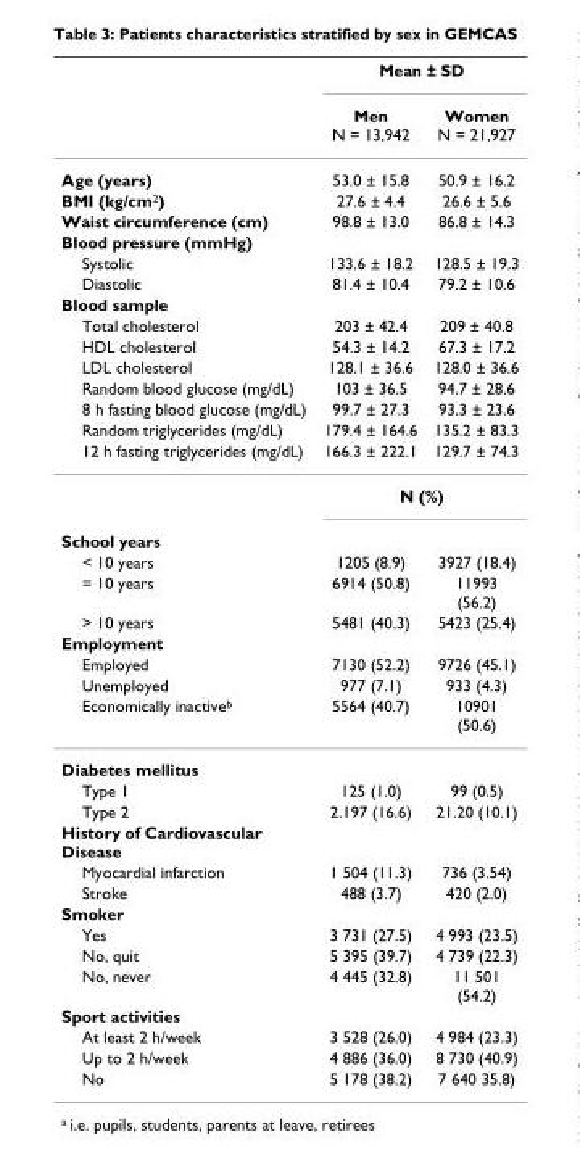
<table><thead><tr><td rowspan="2"></td><td colspan="2">Mean ± SD</td></tr><tr><td>Men N = 13,942</td><td>Women N = 21,927</td></tr></thead><tbody><tr><td>Age (years)</td><td>53.0 ± 15.8</td><td>50.9 ± 16.2</td></tr><tr><td>BMI (kg/cm<sup>2</sup>)</td><td>27.6 ± 4.4</td><td>26.6 ± 5.6</td></tr><tr><td>Waist circumference (cm)</td><td>98.8 ± 13.0</td><td>86.8 ± 14.3</td></tr><tr><td colspan="3">Blood pressure (mmHg)</td></tr><tr><td>Systolic</td><td>133.6 ± 18.2</td><td>128.5 ± 19.3</td></tr><tr><td>Diastolic</td><td>81.4 ± 10.4</td><td>79.2 ± 10.6</td></tr><tr><td colspan="3">Blood sample</td></tr><tr><td>Total cholesterol</td><td>203 ± 42.4</td><td>209 ± 40.8</td></tr><tr><td>HDL cholesterol</td><td>54.3 ± 14.2</td><td>67.3 ± 17.2</td></tr><tr><td>LDL cholesterol</td><td>128.1 ± 36.6</td><td>128.0 ± 36.6</td></tr><tr><td>Random blood glucose (mg/dL)</td><td>103 ± 36.5</td><td>94.7 ± 28.6</td></tr><tr><td>8 h fasting blood glucose (mg/dL)</td><td>99.7 ± 27.3</td><td>93.3 ± 23.6</td></tr><tr><td>Random triglycerides (mg/dL)</td><td>179.4 ± 164.6</td><td>135.2 ± 83.3</td></tr><tr><td rowspan="2">12 h fasting triglycerides (mg/dL)</td><td>166.3 ± 222.1</td><td>129.7 ± 74.3</td></tr><tr><td colspan="2">N (%)</td></tr><tr><td colspan="3">School years</td></tr><tr><td>&lt; 10 years</td><td>1205 (8.9)</td><td>3927 (18.4)</td></tr><tr><td>= 10 years</td><td>6914 (50.8)</td><td>11993 (56.2)</td></tr><tr><td>&gt; 10 years</td><td>5481 (40.3)</td><td>5423 (25.4)</td></tr><tr><td colspan="3">Employment</td></tr><tr><td>Employed</td><td>7130 (52.2)</td><td>9726 (45.1)</td></tr><tr><td>Unemployed</td><td>977 (7.1)</td><td>933 (4.3)</td></tr><tr><td>Economically inactive<sup>b</sup></td><td>5564 (40.7)</td><td>10901 (50.6)</td></tr><tr><td colspan="3">Diabetes mellitus</td></tr><tr><td>Type 1</td><td>125 (1.0)</td><td>99 (0.5)</td></tr><tr><td>Type 2</td><td>2.197 (16.6)</td><td>21.20 (10.1)</td></tr><tr><td colspan="3">History of Cardiovascular Disease</td></tr><tr><td>Myocardial infarction</td><td>1 504 (11.3)</td><td>736 (3.54)</td></tr><tr><td>Stroke</td><td>488 (3.7)</td><td>420 (2.0)</td></tr><tr><td colspan="3">Smoker</td></tr><tr><td>Yes</td><td>3 731 (27.5)</td><td>4 993 (23.5)</td></tr><tr><td>No, quit</td><td>5 395 (39.7)</td><td>4 739 (22.3)</td></tr><tr><td>No, never</td><td>4 445 (32.8)</td><td>11 501 (54.2)</td></tr><tr><td colspan="3">Sport activities</td></tr><tr><td>At least 2 h/week</td><td>3 528 (26.0)</td><td>4 984 (23.3)</td></tr><tr><td>Up to 2 h/week</td><td>4 886 (36.0)</td><td>8 730 (40.9)</td></tr><tr><td>No</td><td>5 178 (38.2)</td><td>7 640 35.8)</td></tr></tbody></table>